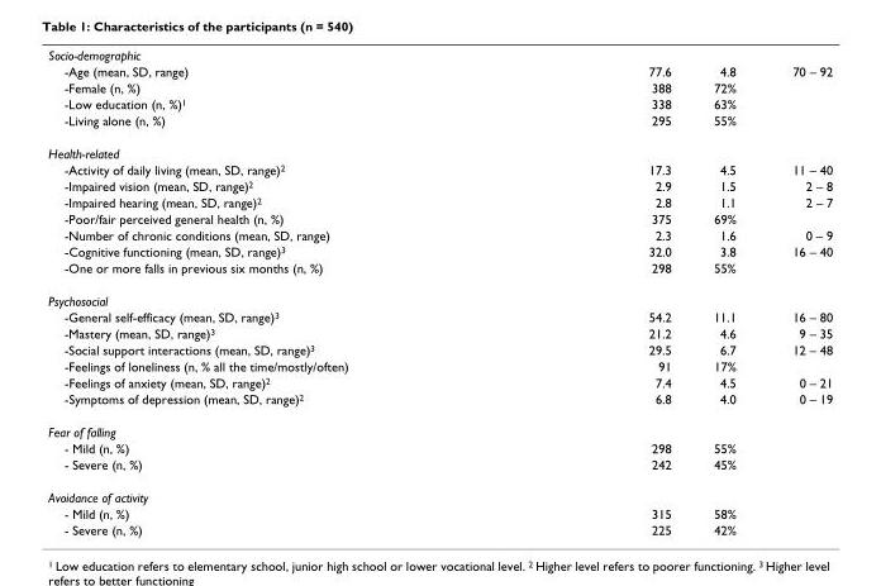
<table><tbody><tr><td colspan="4">Socio-demographic</td></tr><tr><td>-Age (mean, SD, range)</td><td>77.6</td><td>4.8</td><td>70 – 92</td></tr><tr><td>-Female (n, %)</td><td>388</td><td>72%</td><td></td></tr><tr><td>-Low education (n, %)<sup>1</sup></td><td>338</td><td>63%</td><td></td></tr><tr><td>-Living alone (n, %)</td><td>295</td><td>55%</td><td></td></tr><tr><td colspan="4">Health-related</td></tr><tr><td>-Activity of daily living (mean, SD, range)<sup>2</sup></td><td>17.3</td><td>4.5</td><td>11 – 40</td></tr><tr><td>-Impaired vision (mean, SD, range)<sup>2</sup></td><td>2.9</td><td>1.5</td><td>2 – 8</td></tr><tr><td>-Impaired hearing (mean, SD, range)<sup>2</sup></td><td>2.8</td><td>1.1</td><td>2 – 7</td></tr><tr><td>-Poor/fair perceived general health (n, %)</td><td>375</td><td>69%</td><td></td></tr><tr><td>-Number of chronic conditions (mean, SD, range)</td><td>2.3</td><td>1.6</td><td>0 – 9</td></tr><tr><td>-Cognitive functioning (mean, SD, range)<sup>3</sup></td><td>32.0</td><td>3.8</td><td>16 – 40</td></tr><tr><td>-One or more falls in previous six months (n, %)</td><td>298</td><td>55%</td><td></td></tr><tr><td colspan="4">Psychosocial</td></tr><tr><td>-General self-efficacy (mean, SD, range)<sup>3</sup></td><td>54.2</td><td>11.1</td><td>16 – 80</td></tr><tr><td>-Mastery (mean, SD, range)<sup>3</sup></td><td>21.2</td><td>4.6</td><td>9 – 35</td></tr><tr><td>-Social support interactions (mean, SD, range)<sup>3</sup></td><td>29.5</td><td>6.7</td><td>12 – 48</td></tr><tr><td>-Feelings of loneliness (n, % all the time/mostly/often)</td><td>91</td><td>17%</td><td></td></tr><tr><td>-Feelings of anxiety (mean, SD, range)<sup>2</sup></td><td>7.4</td><td>4.5</td><td>0 – 21</td></tr><tr><td>-Symptoms of depression (mean, SD, range)<sup>2</sup></td><td>6.8</td><td>4.0</td><td>0 – 19</td></tr><tr><td colspan="4">Fear of falling</td></tr><tr><td>- Mild (n, %)</td><td>298</td><td>55%</td><td></td></tr><tr><td>- Severe (n, %)</td><td>242</td><td>45%</td><td></td></tr><tr><td colspan="4">Avoidance of activity</td></tr><tr><td>- Mild (n, %)</td><td>315</td><td>58%</td><td></td></tr><tr><td>- Severe (n, %)</td><td>225</td><td>42%</td><td></td></tr></tbody></table>